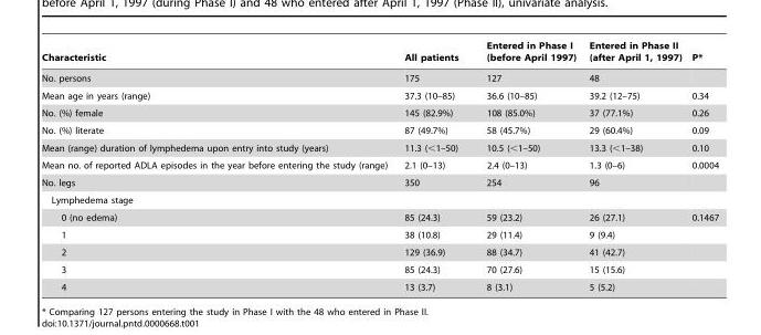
<table><thead><tr><td>Characteristic</td><td>All patients</td><td>Entered in Phase I (before April 1997)</td><td>Entered in Phase II (after April 1, 1997)</td><td>P*</td></tr></thead><tbody><tr><td>No. persons</td><td>175</td><td>127</td><td>48</td><td></td></tr><tr><td>Mean age in years (range)</td><td>37.3 (10–85)</td><td>36.6 (10–85)</td><td>39.2 (12–75)</td><td>0.34</td></tr><tr><td>No. (%) female</td><td>145 (82.9%)</td><td>108 (85.0%)</td><td>37 (77.1%)</td><td>0.26</td></tr><tr><td>No. (%) literate</td><td>87 (49.7%)</td><td>58 (45.7%)</td><td>29 (60.4%)</td><td>0.09</td></tr><tr><td>Mean (range) duration of lymphedema upon entry into study (years)</td><td>11.3 (&lt;1–50)</td><td>10.5 (&lt;1–50)</td><td>13.3 (&lt;1–38)</td><td>0.10</td></tr><tr><td>Mean no. of reported ADLA episodes in the year before entering the study (range)</td><td>2.1 (0–13)</td><td>2.4 (0–13)</td><td>1.3 (0–6)</td><td>0.0004</td></tr><tr><td>No. legs</td><td>350</td><td>254</td><td>96</td><td></td></tr><tr><td colspan="5">Lymphedema stage</td></tr><tr><td>0 (no edema)</td><td>85 (24.3)</td><td>59 (23.2)</td><td>26 (27.1)</td><td>0.1467</td></tr><tr><td>1</td><td>38 (10.8)</td><td>29 (11.4)</td><td>9 (9.4)</td><td></td></tr><tr><td>2</td><td>129 (36.9)</td><td>88 (34.7)</td><td>41 (42.7)</td><td></td></tr><tr><td>3</td><td>85 (24.3)</td><td>70 (27.6)</td><td>15 (15.6)</td><td></td></tr><tr><td>4</td><td>13 (3.7)</td><td>8 (3.1)</td><td>5 (5.2)</td><td></td></tr></tbody></table>